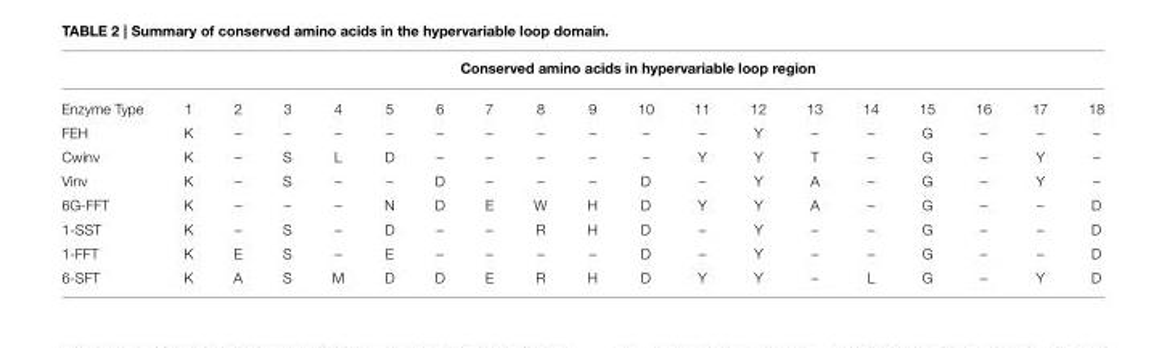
<table><thead><tr><td rowspan="2">Enzyme Type</td><td colspan="18">Conserved amino acids in hypervariable loop region</td></tr><tr><td>1</td><td>2</td><td>3</td><td>4</td><td>5</td><td>6</td><td>7</td><td>8</td><td>9</td><td>10</td><td>11</td><td>12</td><td>13</td><td>14</td><td>15</td><td>16</td><td>17</td><td>18</td></tr></thead><tbody><tr><td>FEH</td><td>K</td><td>–</td><td>–</td><td>–</td><td>–</td><td>–</td><td>–</td><td>–</td><td>–</td><td>–</td><td>–</td><td>Y</td><td>–</td><td>–</td><td>G</td><td>–</td><td>–</td><td>–</td></tr><tr><td>Cwinv</td><td>K</td><td>–</td><td>S</td><td>L</td><td>D</td><td>–</td><td>–</td><td>–</td><td>–</td><td>–</td><td>Y</td><td>Y</td><td>T</td><td>–</td><td>G</td><td>–</td><td>Y</td><td>–</td></tr><tr><td>Vinv</td><td>K</td><td>–</td><td>S</td><td>–</td><td>–</td><td>D</td><td>–</td><td>–</td><td>–</td><td>D</td><td>–</td><td>Y</td><td>A</td><td>–</td><td>G</td><td>–</td><td>Y</td><td>–</td></tr><tr><td>6G-FFT</td><td>K</td><td>–</td><td>–</td><td>–</td><td>N</td><td>D</td><td>E</td><td>W</td><td>H</td><td>D</td><td>Y</td><td>Y</td><td>A</td><td>–</td><td>G</td><td>–</td><td>–</td><td>D</td></tr><tr><td>1-SST</td><td>K</td><td>–</td><td>S</td><td>–</td><td>D</td><td>–</td><td>–</td><td>R</td><td>H</td><td>D</td><td>–</td><td>Y</td><td>–</td><td>–</td><td>G</td><td>–</td><td>–</td><td>D</td></tr><tr><td>1-FFT</td><td>K</td><td>E</td><td>S</td><td>–</td><td>E</td><td>–</td><td>–</td><td>–</td><td>–</td><td>D</td><td>–</td><td>Y</td><td>–</td><td>–</td><td>G</td><td>–</td><td>–</td><td>D</td></tr><tr><td>6-SFT</td><td>K</td><td>A</td><td>S</td><td>M</td><td>D</td><td>D</td><td>E</td><td>R</td><td>H</td><td>D</td><td>Y</td><td>Y</td><td>–</td><td>L</td><td>G</td><td>–</td><td>Y</td><td>D</td></tr></tbody></table>